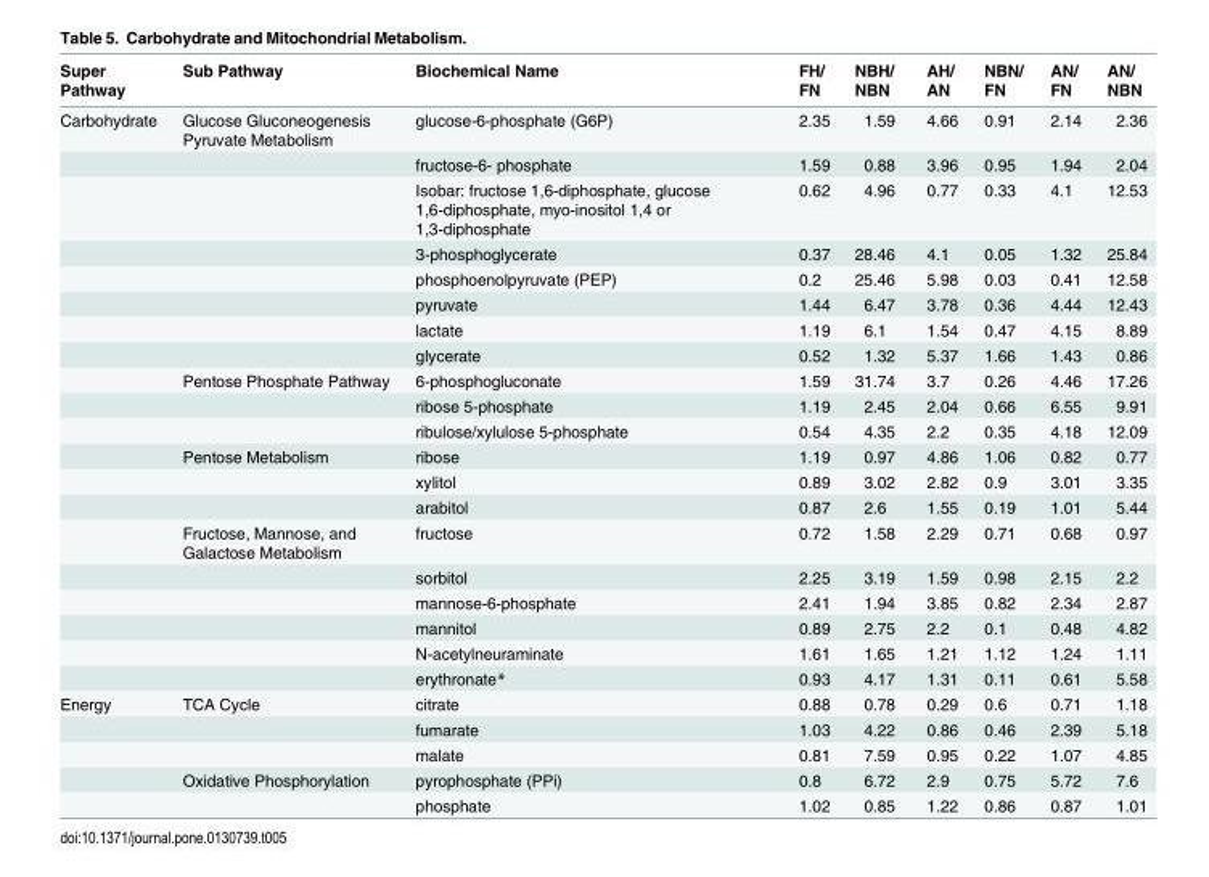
<table><thead><tr><td>Super Pathway</td><td>Sub Pathway</td><td>Biochemical Name</td><td>FH/ FN</td><td>NBH/ NBN</td><td>AH/ AN</td><td>NBN/ FN</td><td>AN/ FN</td><td>AN/ NBN</td></tr></thead><tbody><tr><td rowspan="20">Carbohydrate</td><td>Glucose Gluconeogenesis Pyruvate Metabolism</td><td>glucose-6-phosphate (G6P)</td><td>2.35</td><td>1.59</td><td>4.66</td><td>0.91</td><td>2.14</td><td>2.36</td></tr><tr><td></td><td>fructose-6- phosphate</td><td>1.59</td><td>0.88</td><td>3.96</td><td>0.95</td><td>1.94</td><td>2.04</td></tr><tr><td></td><td>Isobar: fructose 1,6-diphosphate, glucose 1,6-diphosphate, myo-inositol 1,4 or 1,3-diphosphate</td><td>0.62</td><td>4.96</td><td>0.77</td><td>0.33</td><td>4.1</td><td>12.53</td></tr><tr><td></td><td>3-phosphoglycerate</td><td>0.37</td><td>28.46</td><td>4.1</td><td>0.05</td><td>1.32</td><td>25.84</td></tr><tr><td></td><td>phosphoenolpyruvate (PEP)</td><td>0.2</td><td>25.46</td><td>5.98</td><td>0.03</td><td>0.41</td><td>12.58</td></tr><tr><td></td><td>pyruvate</td><td>1.44</td><td>6.47</td><td>3.78</td><td>0.36</td><td>4.44</td><td>12.43</td></tr><tr><td></td><td>lactate</td><td>1.19</td><td>6.1</td><td>1.54</td><td>0.47</td><td>4.15</td><td>8.89</td></tr><tr><td></td><td>glycerate</td><td>0.52</td><td>1.32</td><td>5.37</td><td>1.66</td><td>1.43</td><td>0.86</td></tr><tr><td>Pentose Phosphate Pathway</td><td>6-phosphogluconate</td><td>1.59</td><td>31.74</td><td>3.7</td><td>0.26</td><td>4.46</td><td>17.26</td></tr><tr><td></td><td>ribose 5-phosphate</td><td>1.19</td><td>2.45</td><td>2.04</td><td>0.66</td><td>6.55</td><td>9.91</td></tr><tr><td></td><td>ribulose/xylulose 5-phosphate</td><td>0.54</td><td>4.35</td><td>2.2</td><td>0.35</td><td>4.18</td><td>12.09</td></tr><tr><td>Pentose Metabolism</td><td>ribose</td><td>1.19</td><td>0.97</td><td>4.86</td><td>1.06</td><td>0.82</td><td>0.77</td></tr><tr><td></td><td>xylitol</td><td>0.89</td><td>3.02</td><td>2.82</td><td>0.9</td><td>3.01</td><td>3.35</td></tr><tr><td></td><td>arabitol</td><td>0.87</td><td>2.6</td><td>1.55</td><td>0.19</td><td>1.01</td><td>5.44</td></tr><tr><td>Fructose, Mannose, and Galactose Metabolism</td><td>fructose</td><td>0.72</td><td>1.58</td><td>2.29</td><td>0.71</td><td>0.68</td><td>0.97</td></tr><tr><td></td><td>sorbitol</td><td>2.25</td><td>3.19</td><td>1.59</td><td>0.98</td><td>2.15</td><td>2.2</td></tr><tr><td></td><td>mannose-6-phosphate</td><td>2.41</td><td>1.94</td><td>3.85</td><td>0.82</td><td>2.34</td><td>2.87</td></tr><tr><td></td><td>mannitol</td><td>0.89</td><td>2.75</td><td>2.2</td><td>0.1</td><td>0.48</td><td>4.82</td></tr><tr><td></td><td>N-acetylneuraminate</td><td>1.61</td><td>1.65</td><td>1.21</td><td>1.12</td><td>1.24</td><td>1.11</td></tr><tr><td></td><td>erythronate*</td><td>0.93</td><td>4.17</td><td>1.31</td><td>0.11</td><td>0.61</td><td>5.58</td></tr><tr><td rowspan="5">Energy</td><td>TCA Cycle</td><td>citrate</td><td>0.88</td><td>0.78</td><td>0.29</td><td>0.6</td><td>0.71</td><td>1.18</td></tr><tr><td></td><td>fumarate</td><td>1.03</td><td>4.22</td><td>0.86</td><td>0.46</td><td>2.39</td><td>5.18</td></tr><tr><td></td><td>malate</td><td>0.81</td><td>7.59</td><td>0.95</td><td>0.22</td><td>1.07</td><td>4.85</td></tr><tr><td>Oxidative Phosphorylation</td><td>pyrophosphate (PPi)</td><td>0.8</td><td>6.72</td><td>2.9</td><td>0.75</td><td>5.72</td><td>7.6</td></tr><tr><td></td><td>phosphate</td><td>1.02</td><td>0.85</td><td>1.22</td><td>0.86</td><td>0.87</td><td>1.01</td></tr></tbody></table>